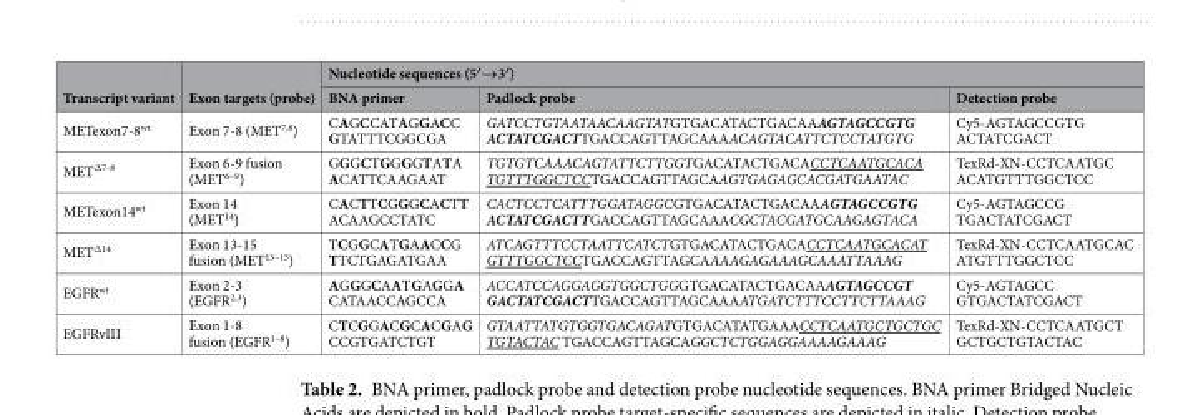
<table><thead><tr><td rowspan="2">Transcript variant</td><td rowspan="2">Exon targets (probe)</td><td colspan="3">Nucleotide sequences (5′→3′)</td></tr><tr><td>BNA primer</td><td>Padlock probe</td><td>Detection probe</td></tr></thead><tbody><tr><td>METexon7-8<sup>wt</sup></td><td>Exon 7-8 (MET<sup>7,8</sup>)</td><td>CAGCCATAGGACC GTATTTCGGCGA</td><td>GATCCTGTAATAACAAGTATGTGACATACTGACAAAGTAGCCGTG ACTATCGACTTGACCAGTTAGCAAAACAGTACATTCTCCTATGTG</td><td>Cy5-AGTAGCCGTG ACTATCGACT</td></tr><tr><td>MET<sup>Δ7-8</sup></td><td>Exon 6-9 fusion (MET<sup>6–9</sup>)</td><td>GGGCTGGGGTATA ACATTCAAGAAT</td><td>TGTGTCAAACAGTATTCTTGGTGACATACTGACACCTCAATGCACA TGTTTGGCTCCTGACCAGTTAGCAAGTGAGAGCACGATGAATAC</td><td>TexRd-XN-CCTCAATGC ACATGTTTGGCTCC</td></tr><tr><td>METexon14<sup>wt</sup></td><td>Exon 14 (MET<sup>14</sup>)</td><td>CACTTCGGGCACTT ACAAGCCTATC</td><td>CACTCCTCATTTGGATAGGCGTGACATACTGACAAAGTAGCCGTG ACTATCGACTTGACCAGTTAGCAAACGCTACGATGCAAGAGTACA</td><td>Cy5-AGTAGCCG TGACTATCGACT</td></tr><tr><td>MET<sup>Δ14</sup></td><td>Exon 13-15 fusion (MET<sup>13–15</sup>)</td><td>TCGGCATGAACCG TTCTGAGATGAA</td><td>ATCAGTTTCCTAATTCATCTGTGACATACTGACACCTCAATGCACAT GTTTGGCTCCTGACCAGTTAGCAAAAGAGAAAGCAAATTAAAG</td><td>TexRd-XN-CCTCAATGCAC ATGTTTGGCTCC</td></tr><tr><td>EGFR<sup>wt</sup></td><td>Exon 2-3 (EGFR<sup>2,3</sup>)</td><td>AGGGCAATGAGGA CATAACCAGCCA</td><td>ACCATCCAGGAGGTGGCTGGGTGACATACTGACAAAGTAGCCGT GACTATCGACTTGACCAGTTAGCAAAATGATCTTTCCTTCTTAAAG</td><td>Cy5-AGTAGCC GTGACTATCGACT</td></tr><tr><td>EGFRvIII</td><td>Exon 1-8 fusion (EGFR<sup>1–8</sup>)</td><td>CTCGGACGCACGAG CCGTGATCTGT</td><td>GTAATTATGTGGTGACAGATGTGACATATGAAACCTCAATGCTGCTGC TGTACTAC TGACCAGTTAGCAGGCTCTGGAGGAAAAGAAAG</td><td>TexRd-XN-CCTCAATGCT GCTGCTGTACTAC</td></tr></tbody></table>